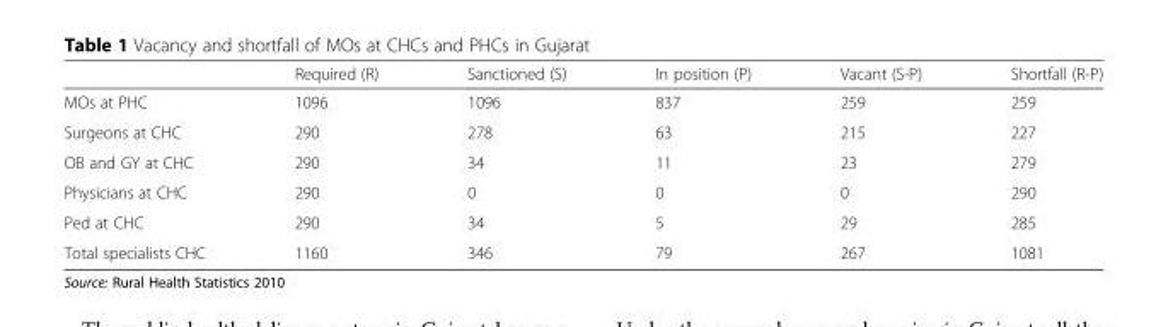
<table><thead><tr><td></td><td>Required (R)</td><td>Sanctioned (S)</td><td>In position (P)</td><td>Vacant (S-P)</td><td>Shortfall (R-P)</td></tr></thead><tbody><tr><td>MOs at PHC</td><td>1096</td><td>1096</td><td>837</td><td>259</td><td>259</td></tr><tr><td>Surgeons at CHC</td><td>290</td><td>278</td><td>63</td><td>215</td><td>227</td></tr><tr><td>OB and GY at CHC</td><td>290</td><td>34</td><td>11</td><td>23</td><td>279</td></tr><tr><td>Physicians at CHC</td><td>290</td><td>0</td><td>0</td><td>0</td><td>290</td></tr><tr><td>Ped at CHC</td><td>290</td><td>34</td><td>5</td><td>29</td><td>285</td></tr><tr><td>Total specialists CHC</td><td>1160</td><td>346</td><td>79</td><td>267</td><td>1081</td></tr></tbody></table>